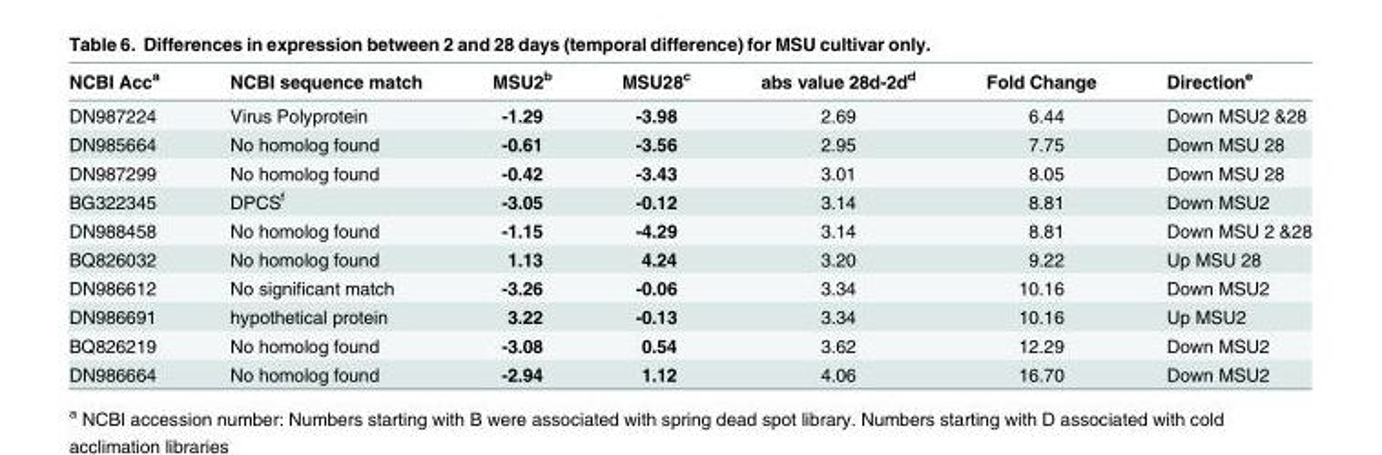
<table><thead><tr><td>NCBI Acc<sup>a</sup></td><td>NCBI sequence match</td><td>MSU2<sup>b</sup></td><td>MSU28<sup>c</sup></td><td>abs value 28d-2d<sup>d</sup></td><td>Fold Change</td><td>Direction<sup>e</sup></td></tr></thead><tbody><tr><td>DN987224</td><td>Virus Polyprotein</td><td>-1.29</td><td>-3.98</td><td>2.69</td><td>6.44</td><td>Down MSU2 &amp;28</td></tr><tr><td>DN985664</td><td>No homolog found</td><td>-0.61</td><td>-3.56</td><td>2.95</td><td>7.75</td><td>Down MSU 28</td></tr><tr><td>DN987299</td><td>No homolog found</td><td>-0.42</td><td>-3.43</td><td>3.01</td><td>8.05</td><td>Down MSU 28</td></tr><tr><td>BG322345</td><td>DPCS<sup>f</sup></td><td>-3.05</td><td>-0.12</td><td>3.14</td><td>8.81</td><td>Down MSU2</td></tr><tr><td>DN988458</td><td>No homolog found</td><td>-1.15</td><td>-4.29</td><td>3.14</td><td>8.81</td><td>Down MSU 2 &amp;28</td></tr><tr><td>BQ826032</td><td>No homolog found</td><td>1.13</td><td>4.24</td><td>3.20</td><td>9.22</td><td>Up MSU 28</td></tr><tr><td>DN986612</td><td>No significant match</td><td>-3.26</td><td>-0.06</td><td>3.34</td><td>10.16</td><td>Down MSU2</td></tr><tr><td>DN986691</td><td>hypothetical protein</td><td>3.22</td><td>-0.13</td><td>3.34</td><td>10.16</td><td>Up MSU2</td></tr><tr><td>BQ826219</td><td>No homolog found</td><td>-3.08</td><td>0.54</td><td>3.62</td><td>12.29</td><td>Down MSU2</td></tr><tr><td>DN986664</td><td>No homolog found</td><td>-2.94</td><td>1.12</td><td>4.06</td><td>16.70</td><td>Down MSU2</td></tr></tbody></table>